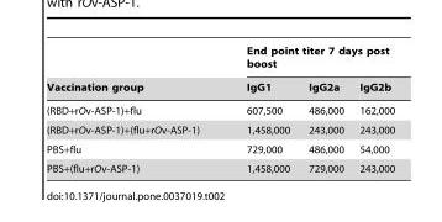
<table><thead><tr><td rowspan="2">Vaccination group</td><td colspan="3">End point titer 7 days post boost</td></tr><tr><td>IgG1</td><td>IgG2a</td><td>IgG2b</td></tr></thead><tbody><tr><td>(RBD+rOv-ASP-1)+flu</td><td>607,500</td><td>486,000</td><td>162,000</td></tr><tr><td>(RBD+rOv-ASP-1)+(flu+rOv-ASP-1)</td><td>1,458,000</td><td>243,000</td><td>243,000</td></tr><tr><td>PBS+flu</td><td>729,000</td><td>486,000</td><td>54,000</td></tr><tr><td>PBS+(flu+rOv-ASP-1)</td><td>1,458,000</td><td>729,000</td><td>243,000</td></tr></tbody></table>